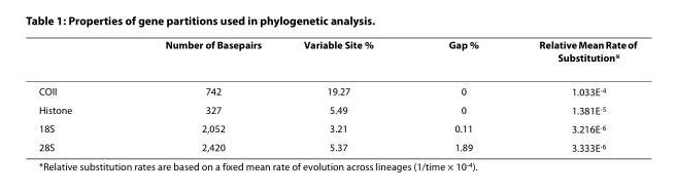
<table><thead><tr><td></td><td>Number of Basepairs</td><td>Variable Site %</td><td>Gap %</td><td>Relative Mean Rate of Substitution*</td></tr></thead><tbody><tr><td>COII</td><td>742</td><td>19.27</td><td>0</td><td>1.033E<sup>-4</sup></td></tr><tr><td>Histone</td><td>327</td><td>5.49</td><td>0</td><td>1.381E<sup>-5</sup></td></tr><tr><td>18S</td><td>2,052</td><td>3.21</td><td>0.11</td><td>3.216E<sup>-6</sup></td></tr><tr><td>28S</td><td>2,420</td><td>5.37</td><td>1.89</td><td>3.333E<sup>-6</sup></td></tr></tbody></table>